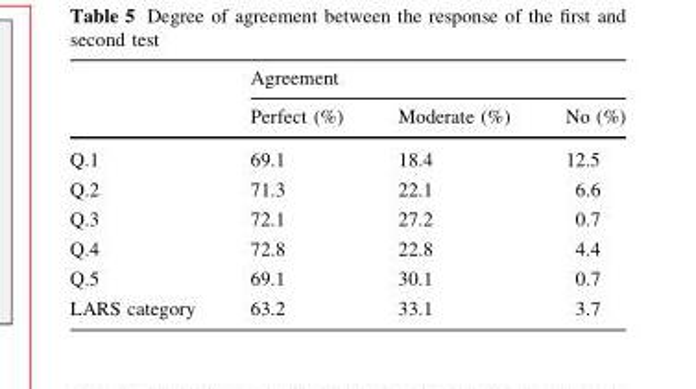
<table><thead><tr><td rowspan="2"></td><td colspan="3">Agreement</td></tr><tr><td>Perfect (%)</td><td>Moderate (%)</td><td>No (%)</td></tr></thead><tbody><tr><td>Q.1</td><td>69.1</td><td>18.4</td><td>12.5</td></tr><tr><td>Q.2</td><td>71.3</td><td>22.1</td><td>6.6</td></tr><tr><td>Q.3</td><td>72.1</td><td>27.2</td><td>0.7</td></tr><tr><td>Q.4</td><td>72.8</td><td>22.8</td><td>4.4</td></tr><tr><td>Q.5</td><td>69.1</td><td>30.1</td><td>0.7</td></tr><tr><td>LARS category</td><td>63.2</td><td>33.1</td><td>3.7</td></tr></tbody></table>